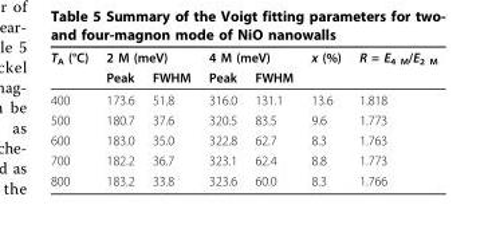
<table><thead><tr><td rowspan="2">T<sub>A</sub> (°C)</td><td colspan="2">2 M (meV)</td><td colspan="2">4 M (meV)</td><td rowspan="2">x (%)</td><td rowspan="2">R = E<sub>4 M</sub>/E<sub>2 M</sub></td></tr><tr><td>Peak</td><td>FWHM</td><td>Peak</td><td>FWHM</td></tr></thead><tbody><tr><td>400</td><td>173.6</td><td>51.8</td><td>316.0</td><td>131.1</td><td>13.6</td><td>1.818</td></tr><tr><td>500</td><td>180.7</td><td>37.6</td><td>320.5</td><td>83.5</td><td>9.6</td><td>1.773</td></tr><tr><td>600</td><td>183.0</td><td>35.0</td><td>322.8</td><td>62.7</td><td>8.3</td><td>1.763</td></tr><tr><td>700</td><td>182.2</td><td>36.7</td><td>323.1</td><td>62.4</td><td>8.8</td><td>1.773</td></tr><tr><td>800</td><td>183.2</td><td>33.8</td><td>323.6</td><td>60.0</td><td>8.3</td><td>1.766</td></tr></tbody></table>